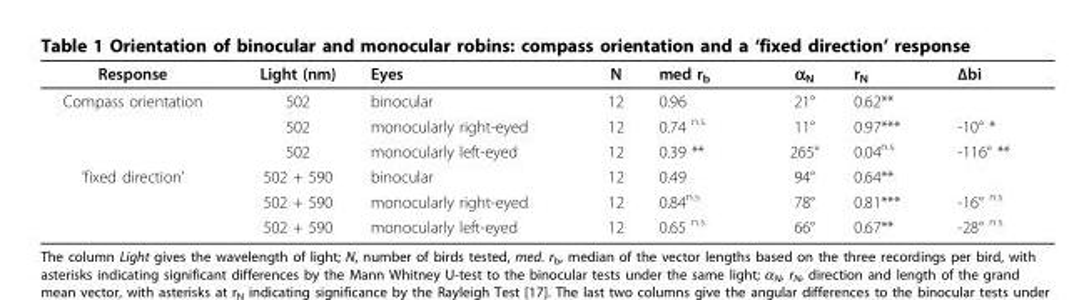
<table><thead><tr><td>Response</td><td>Light (nm)</td><td>Eyes</td><td>N</td><td>med r<sub>b</sub></td><td>α<sub>N</sub></td><td>r<sub>N</sub></td><td>Δbi</td></tr></thead><tbody><tr><td rowspan="3">Compass orientation</td><td>502</td><td>binocular</td><td>12</td><td>0.96</td><td>21°</td><td>0.62**</td><td></td></tr><tr><td>502</td><td>monocularly right-eyed</td><td>12</td><td>0.74 <sup>n.s.</sup></td><td>11°</td><td>0.97***</td><td>-10° *</td></tr><tr><td>502</td><td>monocularly left-eyed</td><td>12</td><td>0.39 **</td><td>265°</td><td>0.04<sup>n.s.</sup></td><td>-116° **</td></tr><tr><td rowspan="3">’fixed direction’</td><td>502 + 590</td><td>binocular</td><td>12</td><td>0.49</td><td>94°</td><td>0.64**</td><td></td></tr><tr><td>502 + 590</td><td>monocularly right-eyed</td><td>12</td><td>0.84<sup>n.s.</sup></td><td>78°</td><td>0.81***</td><td>-16° <sup>n.s.</sup></td></tr><tr><td>502 + 590</td><td>monocularly left-eyed</td><td>12</td><td>0.65 <sup>n.s.</sup></td><td>66°</td><td>0.67**</td><td>-28° <sup>n.s.</sup></td></tr></tbody></table>